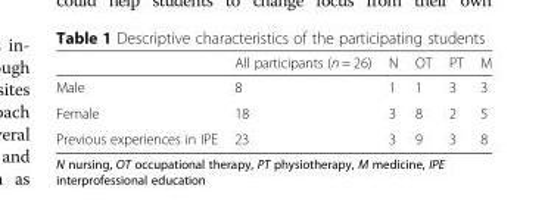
<table><thead><tr><td></td><td>All participants (n = 26)</td><td>N</td><td>OT</td><td>PT</td><td>M</td></tr></thead><tbody><tr><td>Male</td><td>8</td><td>1</td><td>1</td><td>3</td><td>3</td></tr><tr><td>Female</td><td>18</td><td>3</td><td>8</td><td>2</td><td>5</td></tr><tr><td>Previous experiences in IPE</td><td>23</td><td>3</td><td>9</td><td>3</td><td>8</td></tr></tbody></table>